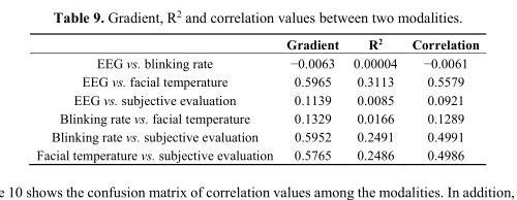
<table><thead><tr><td></td><td>Gradient</td><td>R<sup>2</sup></td><td>Correlation</td></tr></thead><tbody><tr><td>EEG vs. blinking rate</td><td>−0.0063</td><td>0.00004</td><td>−0.0061</td></tr><tr><td>EEG vs. facial temperature</td><td>0.5965</td><td>0.3113</td><td>0.5579</td></tr><tr><td>EEG vs. subjective evaluation</td><td>0.1139</td><td>0.0085</td><td>0.0921</td></tr><tr><td>Blinking rate vs. facial temperature</td><td>0.1329</td><td>0.0166</td><td>0.1289</td></tr><tr><td>Blinking rate vs. subjective evaluation</td><td>0.5952</td><td>0.2491</td><td>0.4991</td></tr><tr><td>Facial temperature vs. subjective evaluation</td><td>0.5765</td><td>0.2486</td><td>0.4986</td></tr></tbody></table>